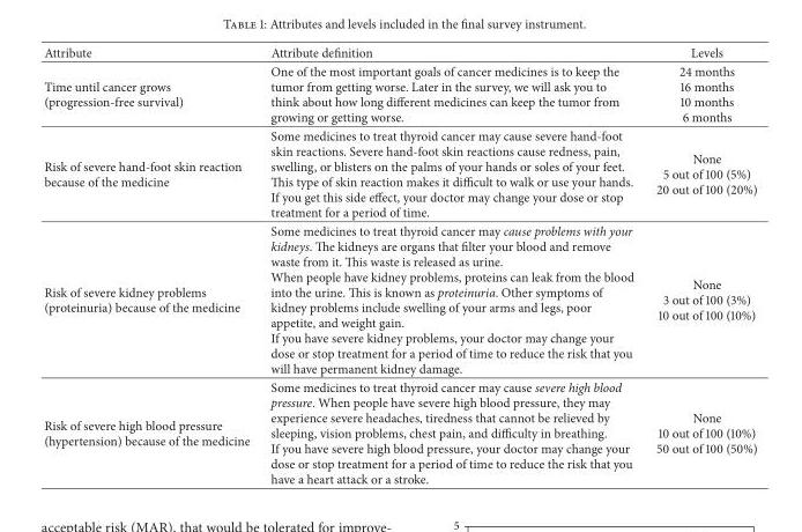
<table><thead><tr><td>Attribute</td><td>Attribute definition</td><td>Levels</td></tr></thead><tbody><tr><td>Time until cancer grows (progression-free survival)</td><td>One of the most important goals of cancer medicines is to keep the tumor from getting worse. Later in the survey, we will ask you to think about how long different medicines can keep the tumor from growing or getting worse.</td><td>24 months 16 months 10 months 6 months</td></tr><tr><td>Risk of severe hand-foot skin reaction because of the medicine</td><td>Some medicines to treat thyroid cancer may cause severe hand-foot skin reactions. Severe hand-foot skin reactions cause redness, pain, swelling, or blisters on the palms of your hands or soles of your feet. This type of skin reaction makes it difficult to walk or use your hands. If you get this side effect, your doctor may change your dose or stop treatment for a period of time.</td><td>None 5 out of 100 (5%) 20 out of 100 (20%)</td></tr><tr><td>Risk of severe kidney problems (proteinuria) because of the medicine</td><td>Some medicines to treat thyroid cancer may cause problems with your kidneys. The kidneys are organs that filter your blood and remove waste from it. This waste is released as urine. When people have kidney problems, proteins can leak from the blood into the urine. This is known as proteinuria. Other symptoms of kidney problems include swelling of your arms and legs, poor appetite, and weight gain. If you have severe kidney problems, your doctor may change your dose or stop treatment for a period of time to reduce the risk that you will have permanent kidney damage.</td><td>None 3 out of 100 (3%) 10 out of 100 (10%)</td></tr><tr><td>Risk of severe high blood pressure (hypertension) because of the medicine</td><td>Some medicines to treat thyroid cancer may cause severe high blood pressure. When people have severe high blood pressure, they may experience severe headaches, tiredness that cannot be relieved by sleeping, vision problems, chest pain, and difficulty in breathing. If you have severe high blood pressure, your doctor may change your dose or stop treatment for a period of time to reduce the risk that you have a heart attack or a stroke.</td><td>None 10 out of 100 (10%) 50 out of 100 (50%)</td></tr></tbody></table>